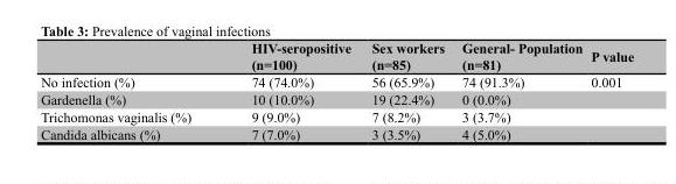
<table><thead><tr><td></td><td>HIV-seropositive (n=100)</td><td>Sex workers (n=85)</td><td>General- Population (n=81)</td><td>P value</td></tr></thead><tbody><tr><td>No infection (%)</td><td>74 (74.0%)</td><td>56 (65.9%)</td><td>74 (91.3%)</td><td>0.001</td></tr><tr><td>Gardenella (%)</td><td>10 (10.0%)</td><td>19 (22.4%)</td><td>0 (0.0%)</td><td></td></tr><tr><td>Trichomonas vaginalis (%)</td><td>9 (9.0%)</td><td>7 (8.2%)</td><td>3 (3.7%)</td><td></td></tr><tr><td>Candida albicans (%)</td><td>7 (7.0%)</td><td>3 (3.5%)</td><td>4 (5.0%)</td><td></td></tr></tbody></table>